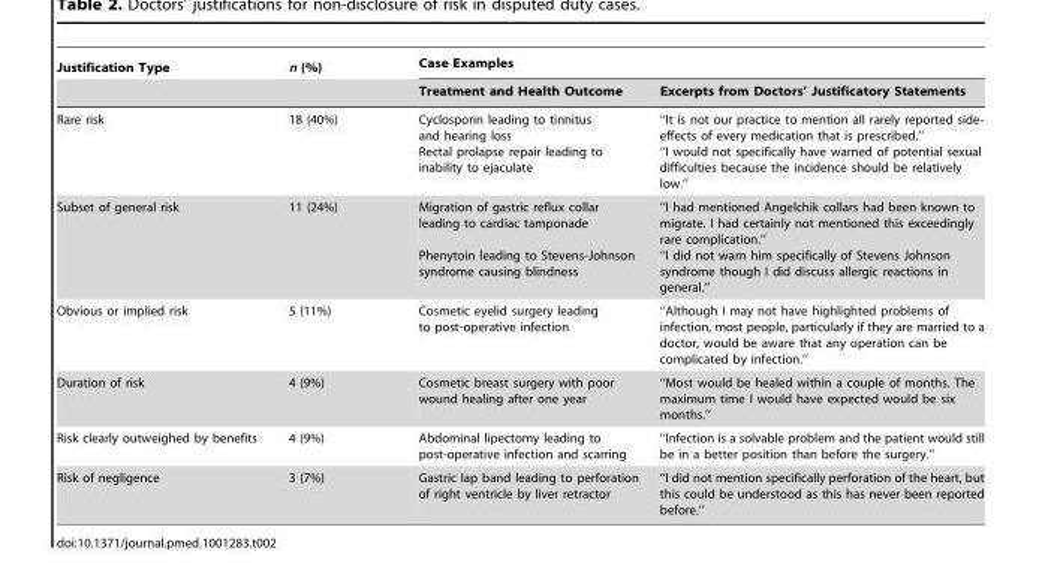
<table><thead><tr><td rowspan="2">Justification Type</td><td rowspan="2">n (%)</td><td colspan="2">Case Examples</td></tr><tr><td>Treatment and Health Outcome</td><td>Excerpts from Doctors’ Justificatory Statements</td></tr></thead><tbody><tr><td>Rare risk</td><td>18 (40%)</td><td>Cyclosporin leading to tinnitus and hearing loss Rectal prolapse repair leading to inability to ejaculate</td><td>‘‘It is not our practice to mention all rarely reported side- effects of every medication that is prescribed.’’ ‘‘I would not specifically have warned of potential sexual difficulties because the incidence should be relatively low.’’</td></tr><tr><td>Subset of general risk</td><td>11 (24%)</td><td>Migration of gastric reflux collar leading to cardiac tamponade Phenytoin leading to Stevens-Johnson syndrome causing blindness</td><td>‘‘I had mentioned Angelchik collars had been known to migrate. I had certainly not mentioned this exceedingly rare complication.’’ ‘‘I did not warn him specifically of Stevens Johnson syndrome though I did discuss allergic reactions in general.’’</td></tr><tr><td>Obvious or implied risk</td><td>5 (11%)</td><td>Cosmetic eyelid surgery leading to post-operative infection</td><td>‘‘Although I may not have highlighted problems of infection, most people, particularly if they are married to a doctor, would be aware that any operation can be complicated by infection.’’</td></tr><tr><td>Duration of risk</td><td>4 (9%)</td><td>Cosmetic breast surgery with poor wound healing after one year</td><td>‘‘Most would be healed within a couple of months. The maximum time I would have expected would be six months.’’</td></tr><tr><td>Risk clearly outweighed by benefits</td><td>4 (9%)</td><td>Abdominal lipectomy leading to post-operative infection and scarring</td><td>‘‘Infection is a solvable problem and the patient would still be in a better position than before the surgery.’’</td></tr><tr><td>Risk of negligence</td><td>3 (7%)</td><td>Gastric lap band leading to perforation of right ventricle by liver retractor</td><td>‘‘I did not mention specifically perforation of the heart, but this could be understood as this has never been reported before.’’</td></tr></tbody></table>